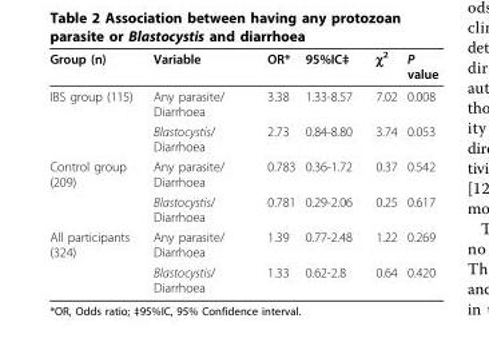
<table><thead><tr><td>Group (n)</td><td>Variable</td><td>OR*</td><td>95%IC‡</td><td>χ<sup>2</sup></td><td>P value</td></tr></thead><tbody><tr><td rowspan="2">IBS group (115)</td><td>Any parasite/ Diarrhoea</td><td>3.38</td><td>1.33-8.57</td><td>7.02</td><td>0.008</td></tr><tr><td>Blastocystis/ Diarrhoea</td><td>2.73</td><td>0.84-8.80</td><td>3.74</td><td>0.053</td></tr><tr><td rowspan="2">Control group (209)</td><td>Any parasite/ Diarrhoea</td><td>0.783</td><td>0.36-1.72</td><td>0.37</td><td>0.542</td></tr><tr><td>Blastocystis/ Diarrhoea</td><td>0.781</td><td>0.29-2.06</td><td>0.25</td><td>0.617</td></tr><tr><td rowspan="2">All participants (324)</td><td>Any parasite/ Diarrhoea</td><td>1.39</td><td>0.77-2.48</td><td>1.22</td><td>0.269</td></tr><tr><td>Blastocystis/ Diarrhoea</td><td>1.33</td><td>0.62-2.8</td><td>0.64</td><td>0.420</td></tr></tbody></table>